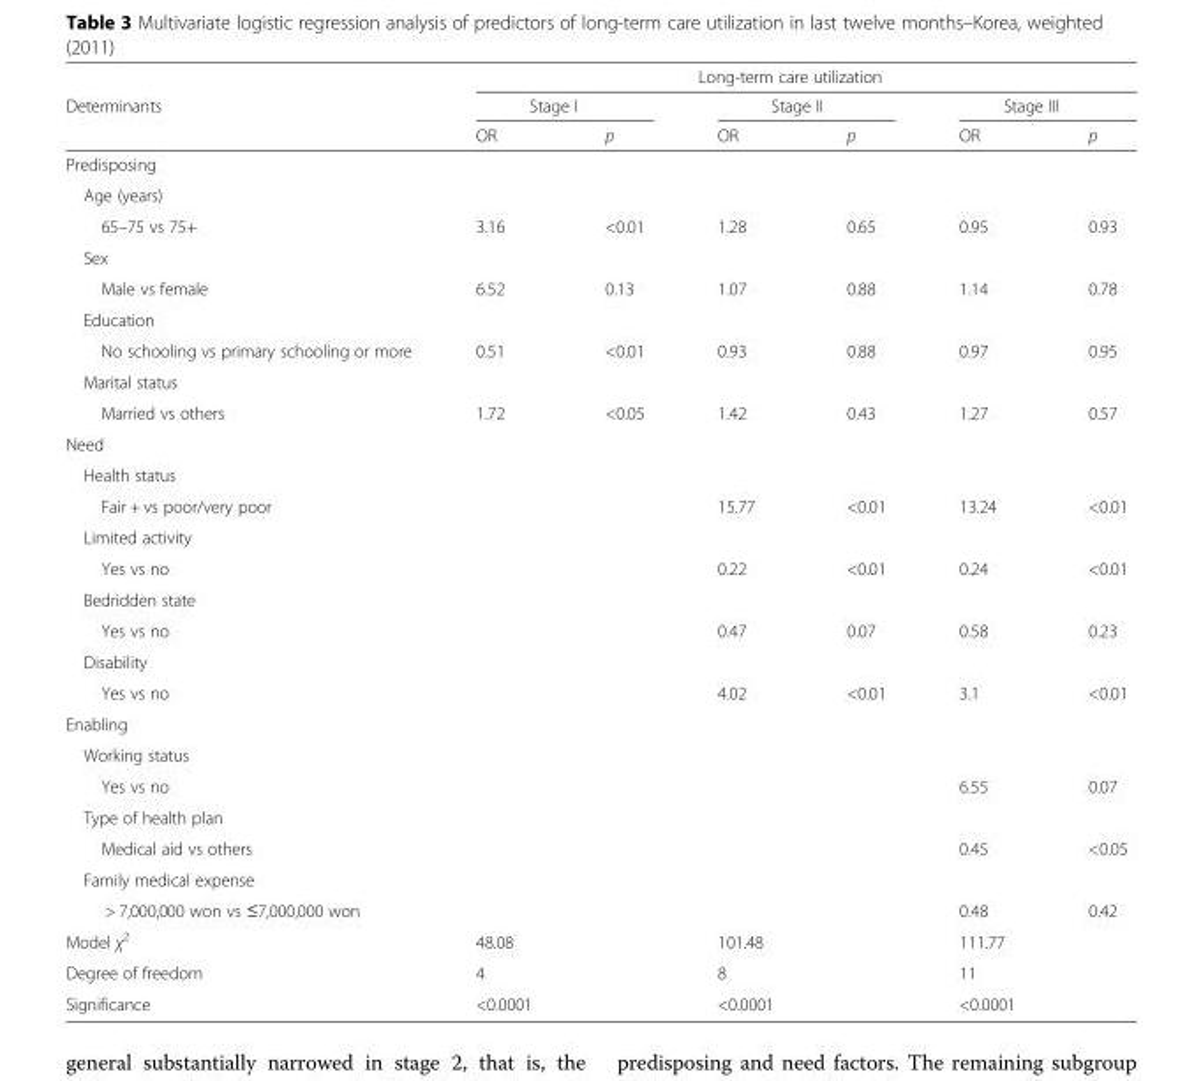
<table><thead><tr><td rowspan="3">Determinants</td><td colspan="6">Long-term care utilization</td></tr><tr><td colspan="2">Stage I</td><td colspan="2">Stage II</td><td colspan="2">Stage III</td></tr><tr><td>OR</td><td>p</td><td>OR</td><td>p</td><td>OR</td><td>p</td></tr></thead><tbody><tr><td colspan="7">Predisposing</td></tr><tr><td colspan="7">Age (years)</td></tr><tr><td>65–75 vs 75+</td><td>3.16</td><td>&lt;0.01</td><td>1.28</td><td>0.65</td><td>0.95</td><td>0.93</td></tr><tr><td colspan="7">Sex</td></tr><tr><td>Male vs female</td><td>6.52</td><td>0.13</td><td>1.07</td><td>0.88</td><td>1.14</td><td>0.78</td></tr><tr><td colspan="7">Education</td></tr><tr><td>No schooling vs primary schooling or more</td><td>0.51</td><td>&lt;0.01</td><td>0.93</td><td>0.88</td><td>0.97</td><td>0.95</td></tr><tr><td colspan="7">Marital status</td></tr><tr><td>Married vs others</td><td>1.72</td><td>&lt;0.05</td><td>1.42</td><td>0.43</td><td>1.27</td><td>0.57</td></tr><tr><td colspan="7">Need</td></tr><tr><td colspan="7">Health status</td></tr><tr><td>Fair + vs poor/very poor</td><td></td><td></td><td>15.77</td><td>&lt;0.01</td><td>13.24</td><td>&lt;0.01</td></tr><tr><td colspan="7">Limited activity</td></tr><tr><td>Yes vs no</td><td></td><td></td><td>0.22</td><td>&lt;0.01</td><td>0.24</td><td>&lt;0.01</td></tr><tr><td colspan="7">Bedridden state</td></tr><tr><td>Yes vs no</td><td></td><td></td><td>0.47</td><td>0.07</td><td>0.58</td><td>0.23</td></tr><tr><td colspan="7">Disability</td></tr><tr><td>Yes vs no</td><td></td><td></td><td>4.02</td><td>&lt;0.01</td><td>3.1</td><td>&lt;0.01</td></tr><tr><td colspan="7">Enabling</td></tr><tr><td colspan="7">Working status</td></tr><tr><td>Yes vs no</td><td></td><td></td><td></td><td></td><td>6.55</td><td>0.07</td></tr><tr><td colspan="7">Type of health plan</td></tr><tr><td>Medical aid vs others</td><td></td><td></td><td></td><td></td><td>0.45</td><td>&lt;0.05</td></tr><tr><td colspan="7">Family medical expense</td></tr><tr><td>&gt; 7,000,000 won vs ≤7,000,000 won</td><td></td><td></td><td></td><td></td><td>0.48</td><td>0.42</td></tr><tr><td>Model χ<sup>2</sup></td><td>48.08</td><td></td><td>101.48</td><td></td><td>111.77</td><td></td></tr><tr><td>Degree of freedom</td><td>4</td><td></td><td>8</td><td></td><td>11</td><td></td></tr><tr><td>Significance</td><td>&lt;0.0001</td><td></td><td>&lt;0.0001</td><td></td><td>&lt;0.0001</td><td></td></tr></tbody></table>